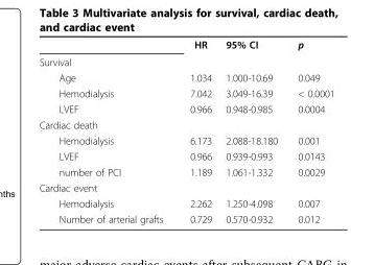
<table><thead><tr><td></td><td>HR</td><td>95% CI</td><td>p</td></tr></thead><tbody><tr><td colspan="4">Survival</td></tr><tr><td>Age</td><td>1.034</td><td>1.000-10.69</td><td>0.049</td></tr><tr><td>Hemodialysis</td><td>7.042</td><td>3.049-16.39</td><td>&lt; 0.0001</td></tr><tr><td>LVEF</td><td>0.966</td><td>0.948-0.985</td><td>0.0004</td></tr><tr><td colspan="4">Cardiac death</td></tr><tr><td>Hemodialysis</td><td>6.173</td><td>2.088-18.180</td><td>0.001</td></tr><tr><td>LVEF</td><td>0.966</td><td>0.939-0.993</td><td>0.0143</td></tr><tr><td>number of PCI</td><td>1.189</td><td>1.061-1.332</td><td>0.0029</td></tr><tr><td colspan="4">Cardiac event</td></tr><tr><td>Hemodialysis</td><td>2.262</td><td>1.250-4.098</td><td>0.007</td></tr><tr><td>Number of arterial grafts</td><td>0.729</td><td>0.570-0.932</td><td>0.012</td></tr></tbody></table>